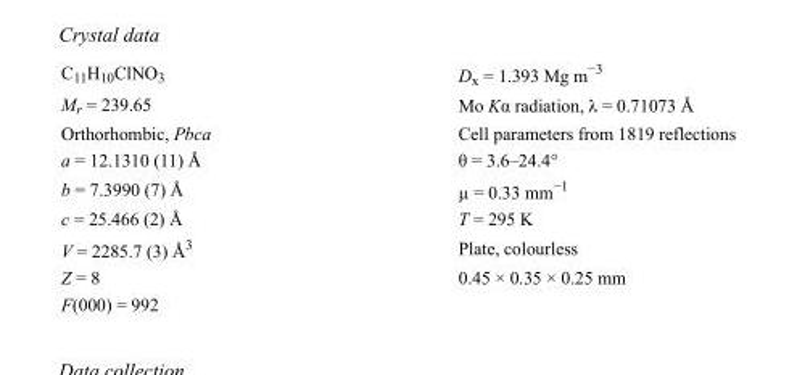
<table><tbody><tr><td>C<sub>11</sub>H<sub>10</sub>ClNO<sub>3</sub></td><td>D<sub>x</sub> = 1.393 Mg m<sup>−3</sup></td></tr><tr><td>M<sub>r</sub> = 239.65</td><td>Mo Kα radiation, λ = 0.71073 Å</td></tr><tr><td>Orthorhombic, Pbca</td><td>Cell parameters from 1819 reflections</td></tr><tr><td>a = 12.1310 (11) Å</td><td>θ = 3.6–24.4°</td></tr><tr><td>b = 7.3990 (7) Å</td><td>µ = 0.33 mm<sup>−1</sup></td></tr><tr><td>c = 25.466 (2) Å</td><td>T = 295 K</td></tr><tr><td>V = 2285.7 (3) Å<sup>3</sup></td><td>Plate, colourless</td></tr><tr><td>Z = 8</td><td>0.45 × 0.35 × 0.25 mm</td></tr><tr><td>F(000) = 992</td><td></td></tr></tbody></table>